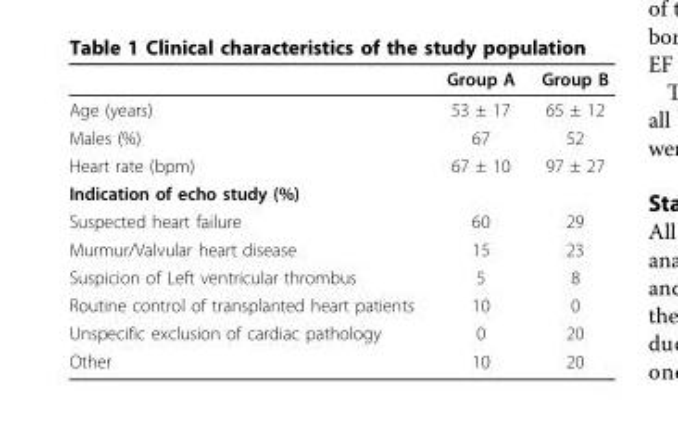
<table><thead><tr><td></td><td>Group A</td><td>Group B</td></tr></thead><tbody><tr><td>Age (years)</td><td>53 ± 17</td><td>65 ± 12</td></tr><tr><td>Males (%)</td><td>67</td><td>52</td></tr><tr><td>Heart rate (bpm)</td><td>67 ± 10</td><td>97 ± 27</td></tr><tr><td colspan="3">Indication of echo study (%)</td></tr><tr><td>Suspected heart failure</td><td>60</td><td>29</td></tr><tr><td>Murmur/Valvular heart disease</td><td>15</td><td>23</td></tr><tr><td>Suspicion of Left ventricular thrombus</td><td>5</td><td>8</td></tr><tr><td>Routine control of transplanted heart patients</td><td>10</td><td>0</td></tr><tr><td>Unspecific exclusion of cardiac pathology</td><td>0</td><td>20</td></tr><tr><td>Other</td><td>10</td><td>20</td></tr></tbody></table>